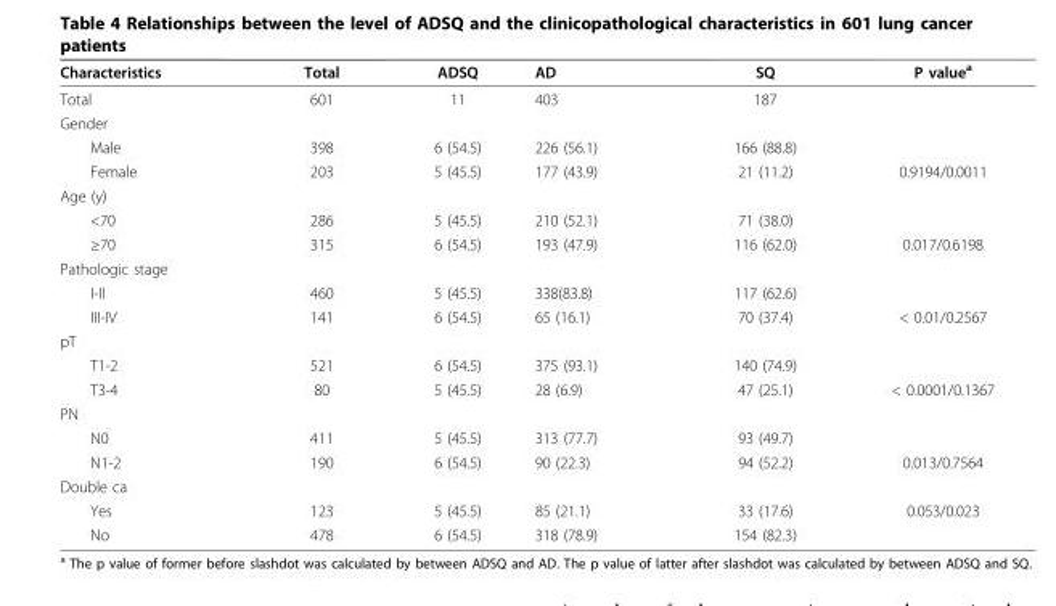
<table><thead><tr><td>Characteristics</td><td>Total</td><td>ADSQ</td><td>AD</td><td>SQ</td><td>P value<sup>a</sup></td></tr></thead><tbody><tr><td>Total</td><td>601</td><td>11</td><td>403</td><td>187</td><td></td></tr><tr><td colspan="6">Gender</td></tr><tr><td>Male</td><td>398</td><td>6 (54.5)</td><td>226 (56.1)</td><td>166 (88.8)</td><td></td></tr><tr><td>Female</td><td>203</td><td>5 (45.5)</td><td>177 (43.9)</td><td>21 (11.2)</td><td>0.9194/0.0011</td></tr><tr><td colspan="6">Age (y)</td></tr><tr><td>&lt;70</td><td>286</td><td>5 (45.5)</td><td>210 (52.1)</td><td>71 (38.0)</td><td></td></tr><tr><td>≥70</td><td>315</td><td>6 (54.5)</td><td>193 (47.9)</td><td>116 (62.0)</td><td>0.017/0.6198</td></tr><tr><td colspan="6">Pathologic stage</td></tr><tr><td>I-II</td><td>460</td><td>5 (45.5)</td><td>338(83.8)</td><td>117 (62.6)</td><td></td></tr><tr><td>III-IV</td><td>141</td><td>6 (54.5)</td><td>65 (16.1)</td><td>70 (37.4)</td><td>&lt; 0.01/0.2567</td></tr><tr><td colspan="6">pT</td></tr><tr><td>T1-2</td><td>521</td><td>6 (54.5)</td><td>375 (93.1)</td><td>140 (74.9)</td><td></td></tr><tr><td>T3-4</td><td>80</td><td>5 (45.5)</td><td>28 (6.9)</td><td>47 (25.1)</td><td>&lt; 0.0001/0.1367</td></tr><tr><td colspan="6">PN</td></tr><tr><td>N0</td><td>411</td><td>5 (45.5)</td><td>313 (77.7)</td><td>93 (49.7)</td><td></td></tr><tr><td>N1-2</td><td>190</td><td>6 (54.5)</td><td>90 (22.3)</td><td>94 (52.2)</td><td>0.013/0.7564</td></tr><tr><td colspan="6">Double ca</td></tr><tr><td>Yes</td><td>123</td><td>5 (45.5)</td><td>85 (21.1)</td><td>33 (17.6)</td><td>0.053/0.023</td></tr><tr><td>No</td><td>478</td><td>6 (54.5)</td><td>318 (78.9)</td><td>154 (82.3)</td><td></td></tr></tbody></table>